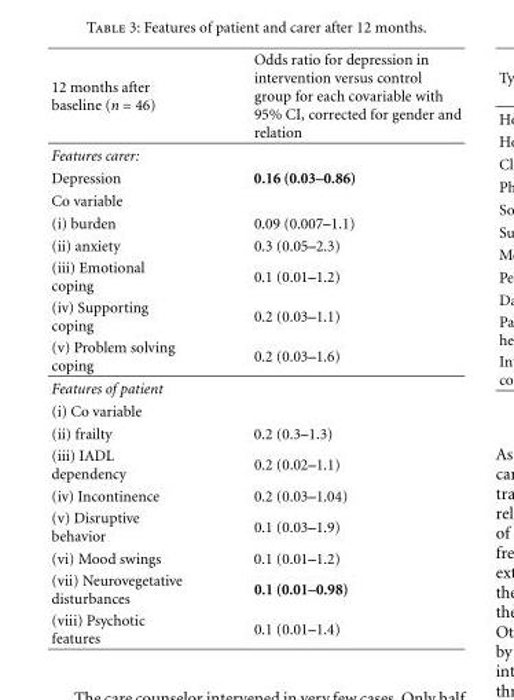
<table><thead><tr><td>12 months after baseline (n = 46)</td><td>Odds ratio for depression in intervention versus control group for each covariable with 95% CI, corrected for gender and relation</td></tr></thead><tbody><tr><td colspan="2">Features carer:</td></tr><tr><td>Depression</td><td>0.16 (0.03–0.86)</td></tr><tr><td colspan="2">Co variable</td></tr><tr><td>(i) burden</td><td>0.09 (0.007–1.1)</td></tr><tr><td>(ii) anxiety</td><td>0.3 (0.05–2.3)</td></tr><tr><td>(iii) Emotional coping</td><td>0.1 (0.01–1.2)</td></tr><tr><td>(iv) Supporting coping</td><td>0.2 (0.03–1.1)</td></tr><tr><td>(v) Problem solving coping</td><td>0.2 (0.03–1.6)</td></tr><tr><td colspan="2">Features of patient</td></tr><tr><td colspan="2">(i) Co variable</td></tr><tr><td>(ii) frailty</td><td>0.2 (0.3–1.3)</td></tr><tr><td>(iii) IADL dependency</td><td>0.2 (0.02–1.1)</td></tr><tr><td>(iv) Incontinence</td><td>0.2 (0.03–1.04)</td></tr><tr><td>(v) Disruptive behavior</td><td>0.1 (0.03–1.9)</td></tr><tr><td>(vi) Mood swings</td><td>0.1 (0.01–1.2)</td></tr><tr><td>(vii) Neurovegetative disturbances</td><td>0.1 (0.01–0.98)</td></tr><tr><td>(viii) Psychotic features</td><td>0.1 (0.01–1.4)</td></tr></tbody></table>